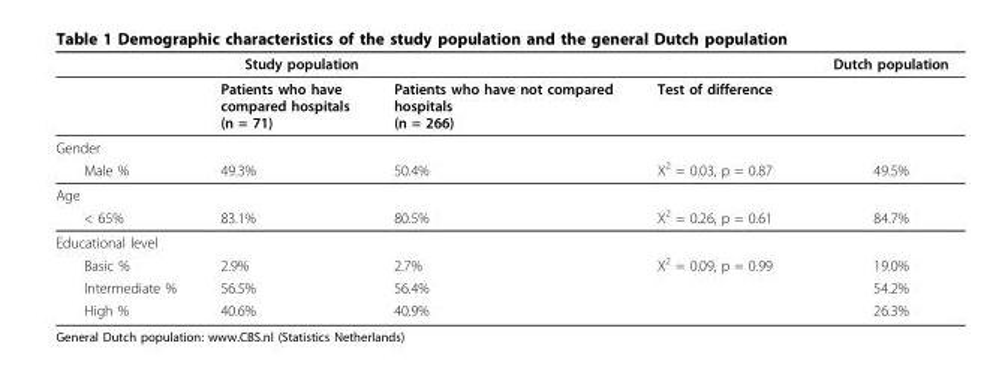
<table><thead><tr><td></td><td>Study population</td><td></td><td></td><td>Dutch population</td></tr></thead><tbody><tr><td></td><td>Patients who have compared hospitals (n = 71)</td><td>Patients who have not compared hospitals (n = 266)</td><td>Test of difference</td><td></td></tr><tr><td colspan="5">Gender</td></tr><tr><td>Male %</td><td>49.3%</td><td>50.4%</td><td>X<sup>2</sup> = 0.03, p = 0.87</td><td>49.5%</td></tr><tr><td colspan="5">Age</td></tr><tr><td>&lt; 65%</td><td>83.1%</td><td>80.5%</td><td>X<sup>2</sup> = 0.26, p = 0.61</td><td>84.7%</td></tr><tr><td colspan="5">Educational level</td></tr><tr><td>Basic %</td><td>2.9%</td><td>2.7%</td><td>X<sup>2</sup> = 0.09, p = 0.99</td><td>19.0%</td></tr><tr><td>Intermediate %</td><td>56.5%</td><td>56.4%</td><td></td><td>54.2%</td></tr><tr><td>High %</td><td>40.6%</td><td>40.9%</td><td></td><td>26.3%</td></tr></tbody></table>